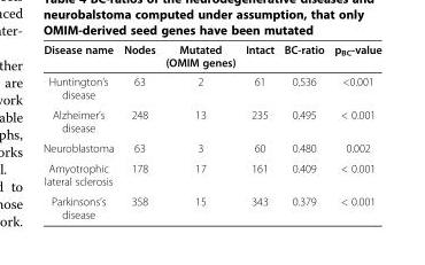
<table><thead><tr><td>Disease name</td><td>Nodes</td><td>Mutated (OMIM genes)</td><td>Intact</td><td>BC-ratio</td><td>p<sub>BC</sub>-value</td></tr></thead><tbody><tr><td>Huntington’s disease</td><td>63</td><td>2</td><td>61</td><td>0.536</td><td>&lt;0.001</td></tr><tr><td>Alzheimer’s disease</td><td>248</td><td>13</td><td>235</td><td>0.495</td><td>&lt; 0.001</td></tr><tr><td>Neuroblastoma</td><td>63</td><td>3</td><td>60</td><td>0.480</td><td>0.002</td></tr><tr><td>Amyotrophic lateral sclerosis</td><td>178</td><td>17</td><td>161</td><td>0.409</td><td>&lt; 0.001</td></tr><tr><td>Parkinsons’s disease</td><td>358</td><td>15</td><td>343</td><td>0.379</td><td>&lt; 0.001</td></tr></tbody></table>